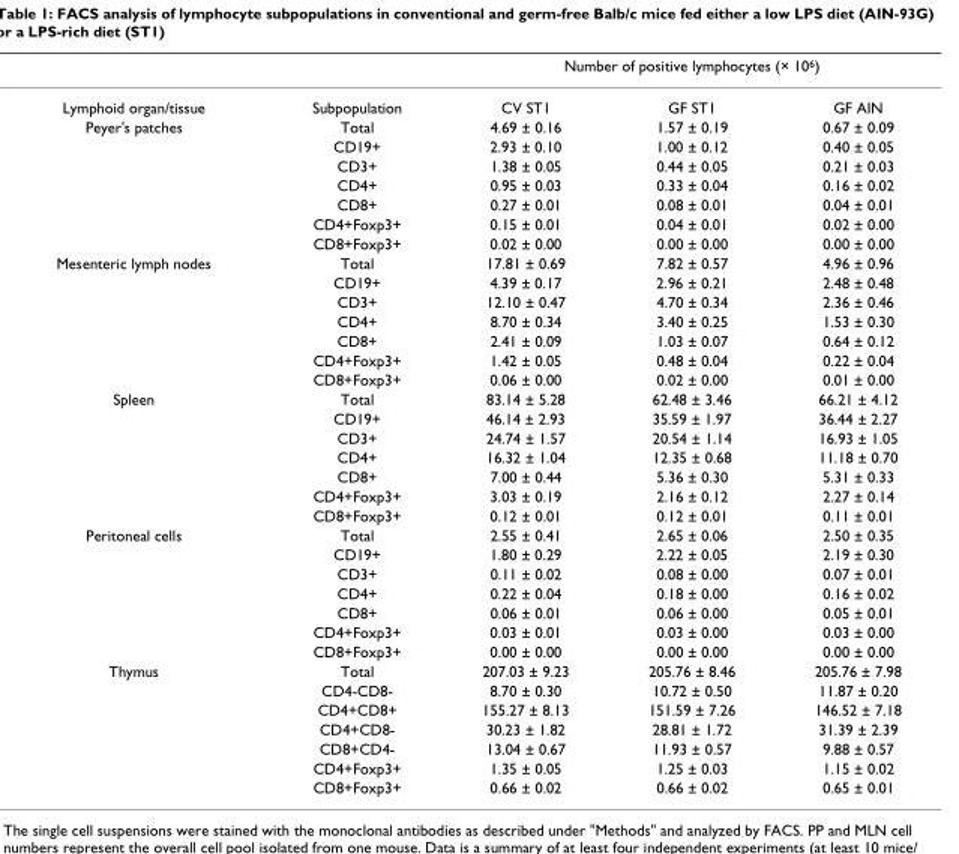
<table><thead><tr><td rowspan="2">Lymphoid organ/tissue</td><td rowspan="2">Subpopulation</td><td colspan="3">Number of positive lymphocytes (× 10<sup>6</sup>)</td></tr><tr><td>CV ST1</td><td>GF ST1</td><td>GF AIN</td></tr></thead><tbody><tr><td rowspan="7">Peyer&#x27;s patches</td><td>Total</td><td>4.69 ± 0.16</td><td>1.57 ± 0.19</td><td>0.67 ± 0.09</td></tr><tr><td>CD19+</td><td>2.93 ± 0.10</td><td>1.00 ± 0.12</td><td>0.40 ± 0.05</td></tr><tr><td>CD3+</td><td>1.38 ± 0.05</td><td>0.44 ± 0.05</td><td>0.21 ± 0.03</td></tr><tr><td>CD4+</td><td>0.95 ± 0.03</td><td>0.33 ± 0.04</td><td>0.16 ± 0.02</td></tr><tr><td>CD8+</td><td>0.27 ± 0.01</td><td>0.08 ± 0.01</td><td>0.04 ± 0.01</td></tr><tr><td>CD4+Foxp3+</td><td>0.15 ± 0.01</td><td>0.04 ± 0.01</td><td>0.02 ± 0.00</td></tr><tr><td>CD8+Foxp3+</td><td>0.02 ± 0.00</td><td>0.00 ± 0.00</td><td>0.00 ± 0.00</td></tr><tr><td rowspan="7">Mesenteric lymph nodes</td><td>Total</td><td>17.81 ± 0.69</td><td>7.82 ± 0.57</td><td>4.96 ± 0.96</td></tr><tr><td>CD19+</td><td>4.39 ± 0.17</td><td>2.96 ± 0.21</td><td>2.48 ± 0.48</td></tr><tr><td>CD3+</td><td>12.10 ± 0.47</td><td>4.70 ± 0.34</td><td>2.36 ± 0.46</td></tr><tr><td>CD4+</td><td>8.70 ± 0.34</td><td>3.40 ± 0.25</td><td>1.53 ± 0.30</td></tr><tr><td>CD8+</td><td>2.41 ± 0.09</td><td>1.03 ± 0.07</td><td>0.64 ± 0.12</td></tr><tr><td>CD4+Foxp3+</td><td>1.42 ± 0.05</td><td>0.48 ± 0.04</td><td>0.22 ± 0.04</td></tr><tr><td>CD8+Foxp3+</td><td>0.06 ± 0.00</td><td>0.02 ± 0.00</td><td>0.01 ± 0.00</td></tr><tr><td rowspan="7">Spleen</td><td>Total</td><td>83.14 ± 5.28</td><td>62.48 ± 3.46</td><td>66.21 ± 4.12</td></tr><tr><td>CD19+</td><td>46.14 ± 2.93</td><td>35.59 ± 1.97</td><td>36.44 ± 2.27</td></tr><tr><td>CD3+</td><td>24.74 ± 1.57</td><td>20.54 ± 1.14</td><td>16.93 ± 1.05</td></tr><tr><td>CD4+</td><td>16.32 ± 1.04</td><td>12.35 ± 0.68</td><td>11.18 ± 0.70</td></tr><tr><td>CD8+</td><td>7.00 ± 0.44</td><td>5.36 ± 0.30</td><td>5.31 ± 0.33</td></tr><tr><td>CD4+Foxp3+</td><td>3.03 ± 0.19</td><td>2.16 ± 0.12</td><td>2.27 ± 0.14</td></tr><tr><td>CD8+Foxp3+</td><td>0.12 ± 0.01</td><td>0.12 ± 0.01</td><td>0.11 ± 0.01</td></tr><tr><td rowspan="7">Peritoneal cells</td><td>Total</td><td>2.55 ± 0.41</td><td>2.65 ± 0.06</td><td>2.50 ± 0.35</td></tr><tr><td>CD19+</td><td>1.80 ± 0.29</td><td>2.22 ± 0.05</td><td>2.19 ± 0.30</td></tr><tr><td>CD3+</td><td>0.11 ± 0.02</td><td>0.08 ± 0.00</td><td>0.07 ± 0.01</td></tr><tr><td>CD4+</td><td>0.22 ± 0.04</td><td>0.18 ± 0.00</td><td>0.16 ± 0.02</td></tr><tr><td>CD8+</td><td>0.06 ± 0.01</td><td>0.06 ± 0.00</td><td>0.05 ± 0.01</td></tr><tr><td>CD4+Foxp3+</td><td>0.03 ± 0.01</td><td>0.03 ± 0.00</td><td>0.03 ± 0.00</td></tr><tr><td>CD8+Foxp3+</td><td>0.00 ± 0.00</td><td>0.00 ± 0.00</td><td>0.00 ± 0.00</td></tr><tr><td rowspan="7">Thymus</td><td>Total</td><td>207.03 ± 9.23</td><td>205.76 ± 8.46</td><td>205.76 ± 7.98</td></tr><tr><td>CD4-CD8-</td><td>8.70 ± 0.30</td><td>10.72 ± 0.50</td><td>11.87 ± 0.20</td></tr><tr><td>CD4+CD8+</td><td>155.27 ± 8.13</td><td>151.59 ± 7.26</td><td>146.52 ± 7.18</td></tr><tr><td>CD4+CD8-</td><td>30.23 ± 1.82</td><td>28.81 ± 1.72</td><td>31.39 ± 2.39</td></tr><tr><td>CD8+CD4-</td><td>13.04 ± 0.67</td><td>11.93 ± 0.57</td><td>9.88 ± 0.57</td></tr><tr><td>CD4+Foxp3+</td><td>1.35 ± 0.05</td><td>1.25 ± 0.03</td><td>1.15 ± 0.02</td></tr><tr><td>CD8+Foxp3+</td><td>0.66 ± 0.02</td><td>0.66 ± 0.02</td><td>0.65 ± 0.01</td></tr></tbody></table>